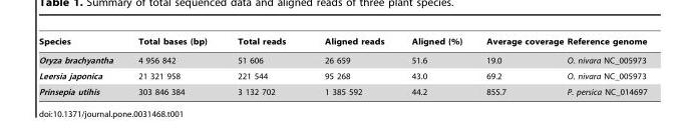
<table><thead><tr><td>Species</td><td>Total bases (bp)</td><td>Total reads</td><td>Aligned reads</td><td>Aligned (%)</td><td>Average coverage</td><td>Reference genome</td></tr></thead><tbody><tr><td>Oryza brachyantha</td><td>4 956 842</td><td>51 606</td><td>26 659</td><td>51.6</td><td>19.0</td><td>O. nivara NC_005973</td></tr><tr><td>Leersia japonica</td><td>21 321 958</td><td>221 544</td><td>95 268</td><td>43.0</td><td>69.2</td><td>O. nivara NC_005973</td></tr><tr><td>Prinsepia utihis</td><td>303 846 384</td><td>3 132 702</td><td>1 385 592</td><td>44.2</td><td>855.7</td><td>P. persica NC_014697</td></tr></tbody></table>